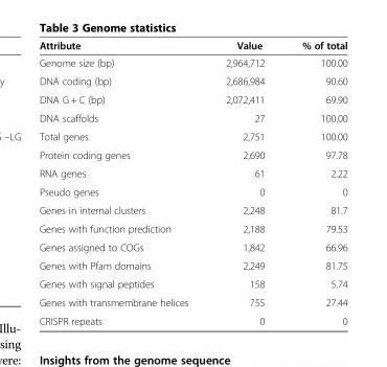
<table><thead><tr><td>Attribute</td><td>Value</td><td>% of total</td></tr></thead><tbody><tr><td>Genome size (bp)</td><td>2,964,712</td><td>100.00</td></tr><tr><td>DNA coding (bp)</td><td>2,686,984</td><td>90.60</td></tr><tr><td>DNA G + C (bp)</td><td>2,072,411</td><td>69.90</td></tr><tr><td>DNA scaffolds</td><td>27</td><td>100.00</td></tr><tr><td>Total genes</td><td>2,751</td><td>100.00</td></tr><tr><td>Protein coding genes</td><td>2,690</td><td>97.78</td></tr><tr><td>RNA genes</td><td>61</td><td>2.22</td></tr><tr><td>Pseudo genes</td><td>0</td><td>0</td></tr><tr><td>Genes in internal clusters</td><td>2,248</td><td>81.7</td></tr><tr><td>Genes with function prediction</td><td>2,188</td><td>79.53</td></tr><tr><td>Genes assigned to COGs</td><td>1,842</td><td>66.96</td></tr><tr><td>Genes with Pfam domains</td><td>2,249</td><td>81.75</td></tr><tr><td>Genes with signal peptides</td><td>158</td><td>5.74</td></tr><tr><td>Genes with transmembrane helices</td><td>755</td><td>27.44</td></tr><tr><td>CRISPR repeats</td><td>0</td><td>0</td></tr></tbody></table>